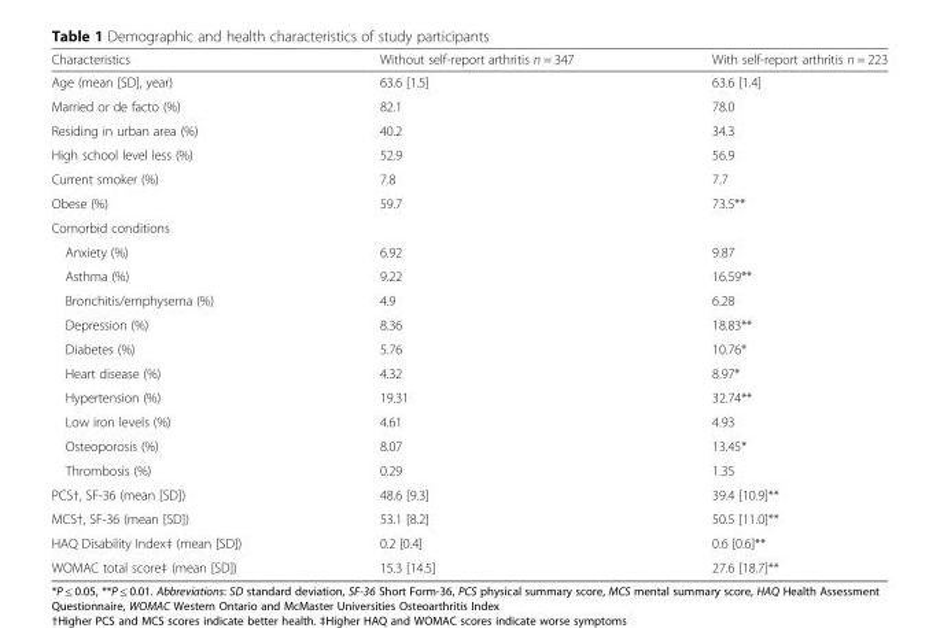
<table><thead><tr><td>Characteristics</td><td>Without self-report arthritis n = 347</td><td>With self-report arthritis n = 223</td></tr></thead><tbody><tr><td>Age (mean [SD], year)</td><td>63.6 [1.5]</td><td>63.6 [1.4]</td></tr><tr><td>Married or de facto (%)</td><td>82.1</td><td>78.0</td></tr><tr><td>Residing in urban area (%)</td><td>40.2</td><td>34.3</td></tr><tr><td>High school level less (%)</td><td>52.9</td><td>56.9</td></tr><tr><td>Current smoker (%)</td><td>7.8</td><td>7.7</td></tr><tr><td>Obese (%)</td><td>59.7</td><td>73.5**</td></tr><tr><td colspan="3">Comorbid conditions</td></tr><tr><td>Anxiety (%)</td><td>6.92</td><td>9.87</td></tr><tr><td>Asthma (%)</td><td>9.22</td><td>16.59**</td></tr><tr><td>Bronchitis/emphysema (%)</td><td>4.9</td><td>6.28</td></tr><tr><td>Depression (%)</td><td>8.36</td><td>18.83**</td></tr><tr><td>Diabetes (%)</td><td>5.76</td><td>10.76*</td></tr><tr><td>Heart disease (%)</td><td>4.32</td><td>8.97*</td></tr><tr><td>Hypertension (%)</td><td>19.31</td><td>32.74**</td></tr><tr><td>Low iron levels (%)</td><td>4.61</td><td>4.93</td></tr><tr><td>Osteoporosis (%)</td><td>8.07</td><td>13.45*</td></tr><tr><td>Thrombosis (%)</td><td>0.29</td><td>1.35</td></tr><tr><td>PCS†, SF-36 (mean [SD])</td><td>48.6 [9.3]</td><td>39.4 [10.9]**</td></tr><tr><td>MCS†, SF-36 (mean [SD])</td><td>53.1 [8.2]</td><td>50.5 [11.0]**</td></tr><tr><td>HAQ Disability Index‡ (mean [SD])</td><td>0.2 [0.4]</td><td>0.6 [0.6]**</td></tr><tr><td>WOMAC total score‡ (mean [SD])</td><td>15.3 [14.5]</td><td>27.6 [18.7]**</td></tr></tbody></table>